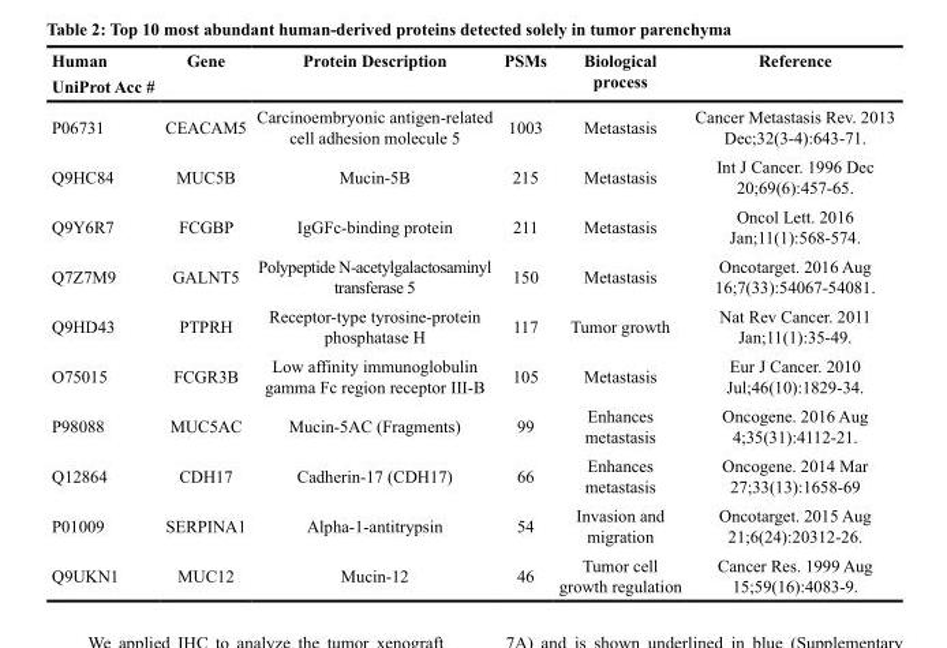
<table><thead><tr><td>Human UniProt Acc #</td><td>Gene</td><td>Protein Description</td><td>PSMs</td><td>Biological process</td><td>Reference</td></tr></thead><tbody><tr><td>P06731</td><td>CEACAM5</td><td>Carcinoembryonic antigen-related cell adhesion molecule 5</td><td>1003</td><td>Metastasis</td><td>Cancer Metastasis Rev. 2013 Dec;32(3-4):643-71.</td></tr><tr><td>Q9HC84</td><td>MUC5B</td><td>Mucin-5B</td><td>215</td><td>Metastasis</td><td>Int J Cancer. 1996 Dec 20;69(6):457-65.</td></tr><tr><td>Q9Y6R7</td><td>FCGBP</td><td>IgGFc-binding protein</td><td>211</td><td>Metastasis</td><td>Oncol Lett. 2016 Jan;11(1):568-574.</td></tr><tr><td>Q7Z7M9</td><td>GALNT5</td><td>Polypeptide N-acetylgalactosaminyl transferase 5</td><td>150</td><td>Metastasis</td><td>Oncotarget. 2016 Aug 16;7(33):54067-54081.</td></tr><tr><td>Q9HD43</td><td>PTPRH</td><td>Receptor-type tyrosine-protein phosphatase H</td><td>117</td><td>Tumor growth</td><td>Nat Rev Cancer. 2011 Jan;11(1):35-49.</td></tr><tr><td>O75015</td><td>FCGR3B</td><td>Low affinity immunoglobulin gamma Fc region receptor III-B</td><td>105</td><td>Metastasis</td><td>Eur J Cancer. 2010 Jul;46(10):1829-34.</td></tr><tr><td>P98088</td><td>MUC5AC</td><td>Mucin-5AC (Fragments)</td><td>99</td><td>Enhances metastasis</td><td>Oncogene. 2016 Aug 4;35(31):4112-21.</td></tr><tr><td>Q12864</td><td>CDH17</td><td>Cadherin-17 (CDH17)</td><td>66</td><td>Enhances metastasis</td><td>Oncogene. 2014 Mar 27;33(13):1658-69</td></tr><tr><td>P01009</td><td>SERPINA1</td><td>Alpha-1-antitrypsin</td><td>54</td><td>Invasion and migration</td><td>Oncotarget. 2015 Aug 21;6(24):20312-26.</td></tr><tr><td>Q9UKN1</td><td>MUC12</td><td>Mucin-12</td><td>46</td><td>Tumor cell growth regulation</td><td>Cancer Res. 1999 Aug 15;59(16):4083-9.</td></tr></tbody></table>